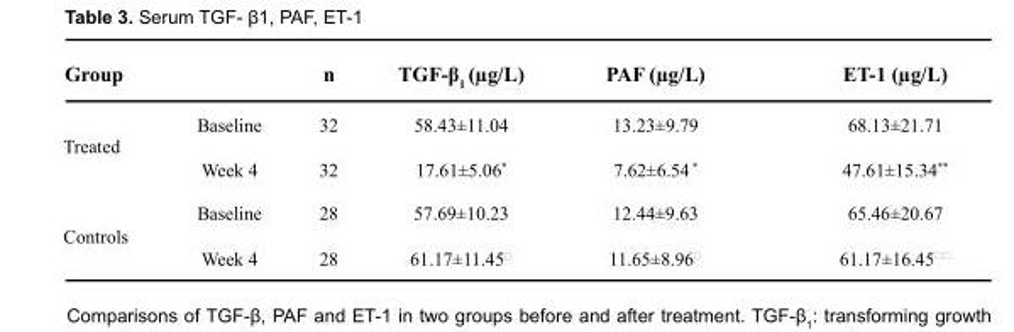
<table><thead><tr><td colspan="2">Group</td><td rowspan="2">n 32</td><td rowspan="2">TGF-β<sub>1</sub> (µg/L) 58.43±11.04</td><td rowspan="2">PAF (µg/L) 13.23±9.79</td><td rowspan="2">ET-1 (µg/L) 68.13±21.71</td></tr><tr><td>Treated</td><td>Baseline</td></tr></thead><tbody><tr><td></td><td>Week 4</td><td>32</td><td>17.61±5.06*</td><td>7.62±6.54 *</td><td>47.61±15.34**</td></tr><tr><td rowspan="2">Controls</td><td>Baseline</td><td>28</td><td>57.69±10.23</td><td>12.44±9.63</td><td>65.46±20.67</td></tr><tr><td>Week 4</td><td>28</td><td>61.17±11.45<sup>△</sup></td><td>11.65±8.96<sup>△</sup></td><td>61.17±16.45<sup>△△</sup></td></tr></tbody></table>